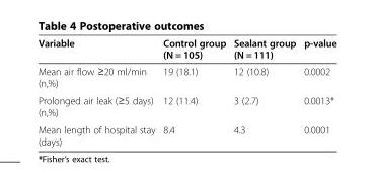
<table><thead><tr><td>Variable</td><td>Control group (N = 105)</td><td>Sealant group (N = 111)</td><td>p-value</td></tr></thead><tbody><tr><td>Mean air flow ≥20 ml/min (n,%)</td><td>19 (18.1)</td><td>12 (10.8)</td><td>0.0002</td></tr><tr><td>Prolonged air leak (≥5 days) (n,%)</td><td>12 (11.4)</td><td>3 (2.7)</td><td>0.0013*</td></tr><tr><td>Mean length of hospital stay (days)</td><td>8.4</td><td>4.3</td><td>0.0001</td></tr></tbody></table>